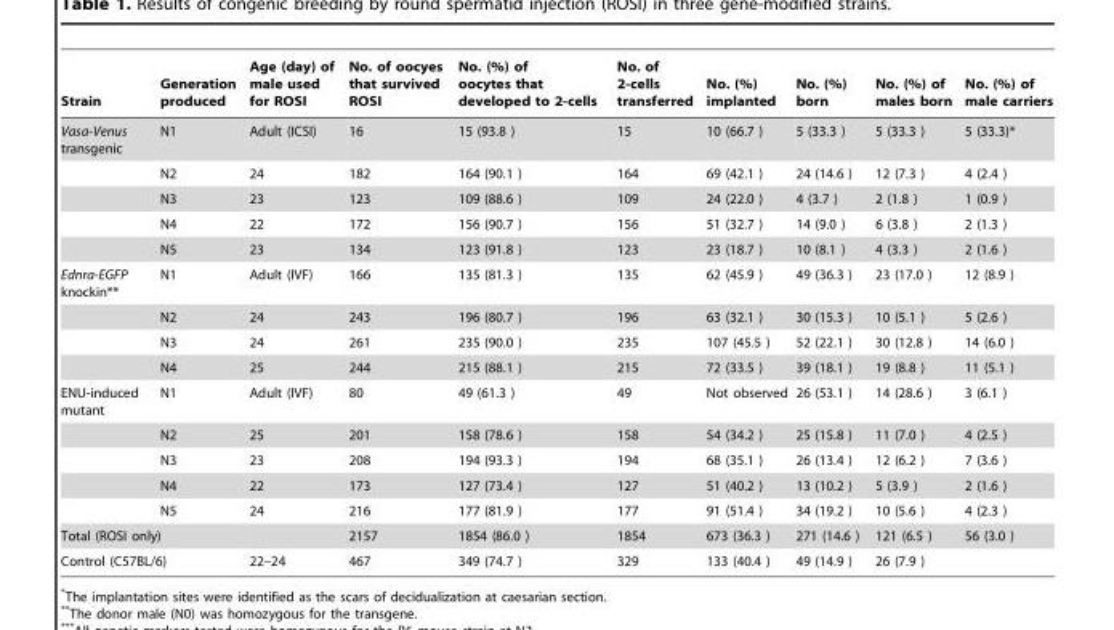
<table><thead><tr><td>Strain</td><td>Generation produced</td><td>Age (day) of male used for ROSI</td><td>No. of oocyes that survived ROSI</td><td>No. (%) of oocytes that developed to 2-cells</td><td>No. of 2-cells transferred</td><td>No. (%) implanted</td><td>No. (%) born</td><td>No. (%) of males born</td><td>No. (%) of male carriers</td></tr></thead><tbody><tr><td rowspan="5">Vasa-Venus transgenic</td><td>N1</td><td>Adult (ICSI)</td><td>16</td><td>15 (93.8 )</td><td>15</td><td>10 (66.7 )</td><td>5 (33.3 )</td><td>5 (33.3 )</td><td>5 (33.3)*</td></tr><tr><td>N2</td><td>24</td><td>182</td><td>164 (90.1 )</td><td>164</td><td>69 (42.1 )</td><td>24 (14.6 )</td><td>12 (7.3 )</td><td>4 (2.4 )</td></tr><tr><td>N3</td><td>23</td><td>123</td><td>109 (88.6 )</td><td>109</td><td>24 (22.0 )</td><td>4 (3.7 )</td><td>2 (1.8 )</td><td>1 (0.9 )</td></tr><tr><td>N4</td><td>22</td><td>172</td><td>156 (90.7 )</td><td>156</td><td>51 (32.7 )</td><td>14 (9.0 )</td><td>6 (3.8 )</td><td>2 (1.3 )</td></tr><tr><td>N5</td><td>23</td><td>134</td><td>123 (91.8 )</td><td>123</td><td>23 (18.7 )</td><td>10 (8.1 )</td><td>4 (3.3 )</td><td>2 (1.6 )</td></tr><tr><td rowspan="4">Ednra-EGFP knockin**</td><td>N1</td><td>Adult (IVF)</td><td>166</td><td>135 (81.3 )</td><td>135</td><td>62 (45.9 )</td><td>49 (36.3 )</td><td>23 (17.0 )</td><td>12 (8.9 )</td></tr><tr><td>N2</td><td>24</td><td>243</td><td>196 (80.7 )</td><td>196</td><td>63 (32.1 )</td><td>30 (15.3 )</td><td>10 (5.1 )</td><td>5 (2.6 )</td></tr><tr><td>N3</td><td>24</td><td>261</td><td>235 (90.0 )</td><td>235</td><td>107 (45.5 )</td><td>52 (22.1 )</td><td>30 (12.8 )</td><td>14 (6.0 )</td></tr><tr><td>N4</td><td>25</td><td>244</td><td>215 (88.1 )</td><td>215</td><td>72 (33.5 )</td><td>39 (18.1 )</td><td>19 (8.8 )</td><td>11 (5.1 )</td></tr><tr><td rowspan="5">ENU-induced mutant</td><td>N1</td><td>Adult (IVF)</td><td>80</td><td>49 (61.3 )</td><td>49</td><td>Not observed</td><td>26 (53.1 )</td><td>14 (28.6 )</td><td>3 (6.1 )</td></tr><tr><td>N2</td><td>25</td><td>201</td><td>158 (78.6 )</td><td>158</td><td>54 (34.2 )</td><td>25 (15.8 )</td><td>11 (7.0 )</td><td>4 (2.5 )</td></tr><tr><td>N3</td><td>23</td><td>208</td><td>194 (93.3 )</td><td>194</td><td>68 (35.1 )</td><td>26 (13.4 )</td><td>12 (6.2 )</td><td>7 (3.6 )</td></tr><tr><td>N4</td><td>22</td><td>173</td><td>127 (73.4 )</td><td>127</td><td>51 (40.2 )</td><td>13 (10.2 )</td><td>5 (3.9 )</td><td>2 (1.6 )</td></tr><tr><td>N5</td><td>24</td><td>216</td><td>177 (81.9 )</td><td>177</td><td>91 (51.4 )</td><td>34 (19.2 )</td><td>10 (5.6 )</td><td>4 (2.3 )</td></tr><tr><td colspan="2">Total (ROSI only)</td><td></td><td>2157</td><td>1854 (86.0 )</td><td>1854</td><td>673 (36.3 )</td><td>271 (14.6 )</td><td>121 (6.5 )</td><td>56 (3.0 )</td></tr><tr><td colspan="2">Control (C57BL/6)</td><td>22–24</td><td>467</td><td>349 (74.7 )</td><td>329</td><td>133 (40.4 )</td><td>49 (14.9 )</td><td>26 (7.9 )</td><td></td></tr></tbody></table>